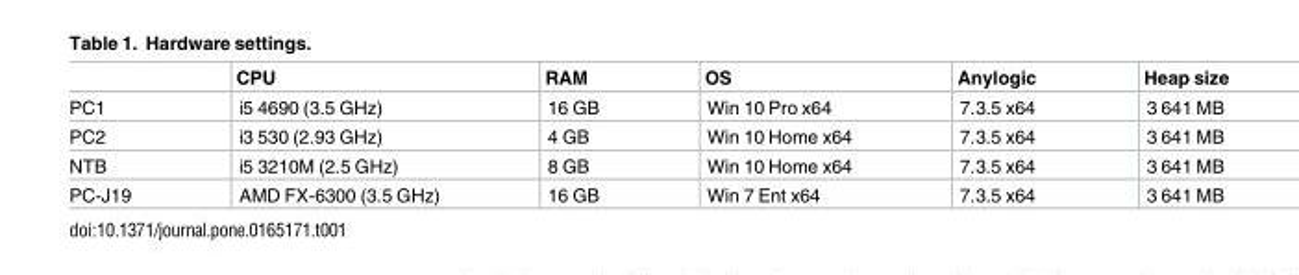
<table><thead><tr><td></td><td>CPU</td><td>RAM</td><td>OS</td><td>Anylogic</td><td>Heap size</td></tr></thead><tbody><tr><td>PC1</td><td>i5 4690 (3.5 GHz)</td><td>16 GB</td><td>Win 10 Pro x64</td><td>7.3.5 x64</td><td>3 641 MB</td></tr><tr><td>PC2</td><td>i3 530 (2.93 GHz)</td><td>4 GB</td><td>Win 10 Home x64</td><td>7.3.5 x64</td><td>3 641 MB</td></tr><tr><td>NTB</td><td>i5 3210M (2.5 GHz)</td><td>8 GB</td><td>Win 10 Home x64</td><td>7.3.5 x64</td><td>3 641 MB</td></tr><tr><td>PC-J19</td><td>AMD FX-6300 (3.5 GHz)</td><td>16 GB</td><td>Win 7 Ent x64</td><td>7.3.5 x64</td><td>3 641 MB</td></tr></tbody></table>